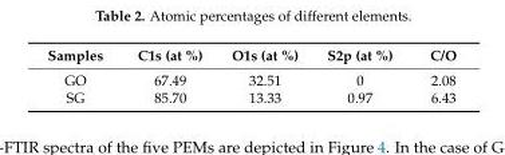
<table><thead><tr><td>Samples</td><td>C1s (at %)</td><td>O1s (at %)</td><td>S2p (at %)</td><td>C/O</td></tr></thead><tbody><tr><td>GO</td><td>67.49</td><td>32.51</td><td>0</td><td>2.08</td></tr><tr><td>SG</td><td>85.70</td><td>13.33</td><td>0.97</td><td>6.43</td></tr></tbody></table>